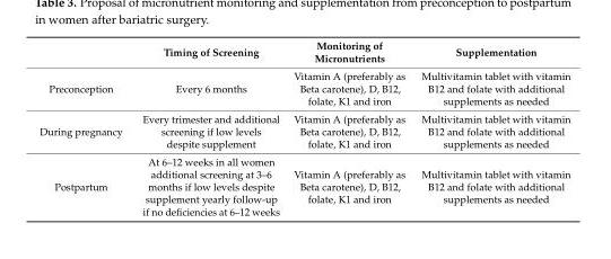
<table><thead><tr><td></td><td>Timing of Screening</td><td>Monitoring of Micronutrients</td><td>Supplementation</td></tr></thead><tbody><tr><td>Preconception</td><td>Every 6 months</td><td>Vitamin A (preferably as Beta carotene), D, B12, folate, K1 and iron</td><td>Multivitamin tablet with vitamin B12 and folate with additional supplements as needed</td></tr><tr><td>During pregnancy</td><td>Every trimester and additional screening if low levels despite supplement</td><td>Vitamin A (preferably as Beta carotene), D, B12, folate, K1 and iron</td><td>Multivitamin tablet with vitamin B12 and folate with additional supplements as needed</td></tr><tr><td>Postpartum</td><td>At 6–12 weeks in all women additional screening at 3–6 months if low levels despite supplement yearly follow-up if no deficiencies at 6–12 weeks</td><td>Vitamin A (preferably as Beta carotene), D, B12, folate, K1 and iron</td><td>Multivitamin tablet with vitamin B12 and folate with additional supplements as needed</td></tr></tbody></table>